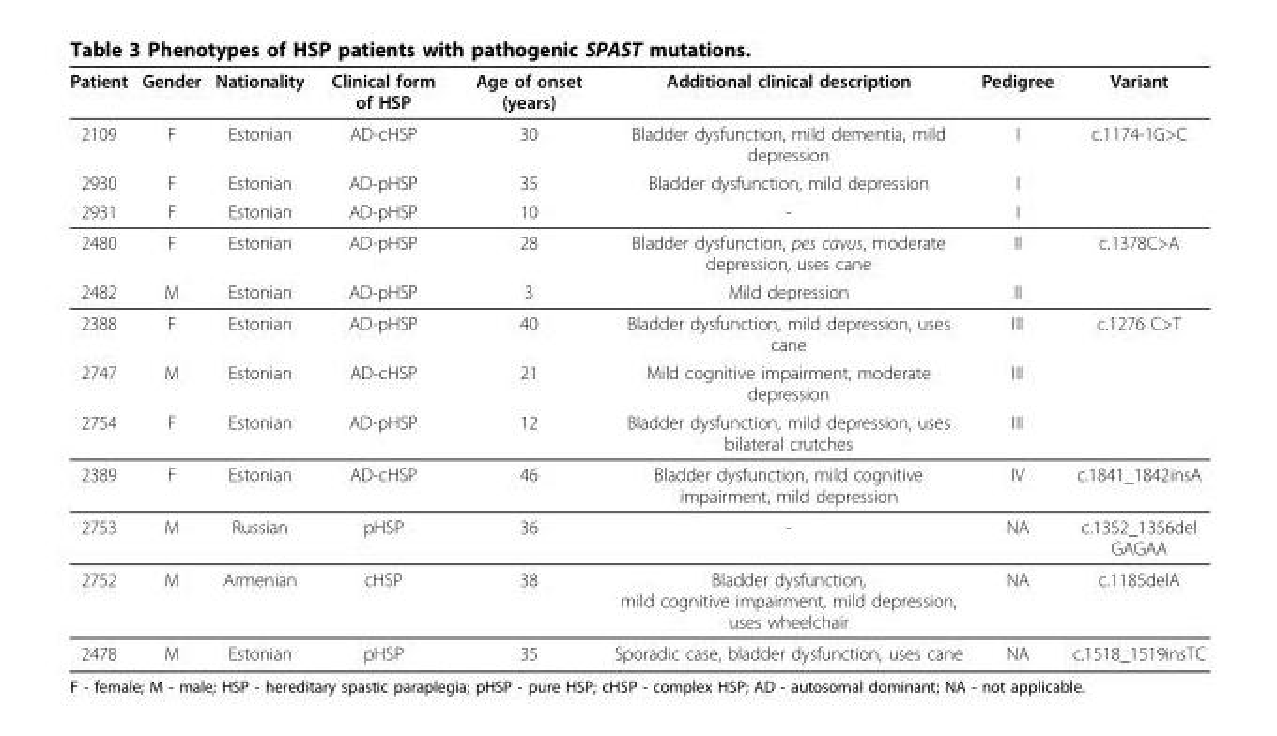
<table><thead><tr><td>Patient</td><td>Gender</td><td>Nationality</td><td>Clinical form of HSP</td><td>Age of onset (years)</td><td>Additional clinical description</td><td>Pedigree</td><td>Variant</td></tr></thead><tbody><tr><td>2109</td><td>F</td><td>Estonian</td><td>AD-cHSP</td><td>30</td><td>Bladder dysfunction, mild dementia, mild depression</td><td>I</td><td>c.1174-1G&gt;C</td></tr><tr><td>2930</td><td>F</td><td>Estonian</td><td>AD-pHSP</td><td>35</td><td>Bladder dysfunction, mild depression</td><td>I</td><td></td></tr><tr><td>2931</td><td>F</td><td>Estonian</td><td>AD-pHSP</td><td>10</td><td>-</td><td>I</td><td></td></tr><tr><td>2480</td><td>F</td><td>Estonian</td><td>AD-pHSP</td><td>28</td><td>Bladder dysfunction, pes cavus, moderate depression, uses cane</td><td>II</td><td>c.1378C&gt;A</td></tr><tr><td>2482</td><td>M</td><td>Estonian</td><td>AD-pHSP</td><td>3</td><td>Mild depression</td><td>II</td><td></td></tr><tr><td>2388</td><td>F</td><td>Estonian</td><td>AD-pHSP</td><td>40</td><td>Bladder dysfunction, mild depression, uses cane</td><td>III</td><td>c.1276 C&gt;T</td></tr><tr><td>2747</td><td>M</td><td>Estonian</td><td>AD-cHSP</td><td>21</td><td>Mild cognitive impairment, moderate depression</td><td>III</td><td></td></tr><tr><td>2754</td><td>F</td><td>Estonian</td><td>AD-pHSP</td><td>12</td><td>Bladder dysfunction, mild depression, uses bilateral crutches</td><td>III</td><td></td></tr><tr><td>2389</td><td>F</td><td>Estonian</td><td>AD-cHSP</td><td>46</td><td>Bladder dysfunction, mild cognitive impairment, mild depression</td><td>IV</td><td>c.1841_1842insA</td></tr><tr><td>2753</td><td>M</td><td>Russian</td><td>pHSP</td><td>36</td><td>-</td><td>NA</td><td>c.1352_1356del GAGAA</td></tr><tr><td>2752</td><td>M</td><td>Armenian</td><td>cHSP</td><td>38</td><td>Bladder dysfunction, mild cognitive impairment, mild depression, uses wheelchair</td><td>NA</td><td>c.1185delA</td></tr><tr><td>2478</td><td>M</td><td>Estonian</td><td>pHSP</td><td>35</td><td>Sporadic case, bladder dysfunction, uses cane</td><td>NA</td><td>c.1518_1519insTC</td></tr></tbody></table>